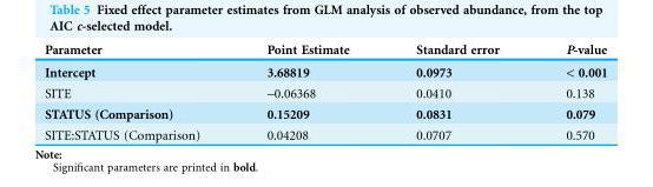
<table><thead><tr><td>Parameter</td><td>Point Estimate</td><td>Standard error</td><td>P-value</td></tr></thead><tbody><tr><td>Intercept</td><td>3.68819</td><td>0.0973</td><td>&lt; 0.001</td></tr><tr><td>SITE</td><td>-0.06368</td><td>0.0410</td><td>0.138</td></tr><tr><td>STATUS (Comparison)</td><td>0.15209</td><td>0.0831</td><td>0.079</td></tr><tr><td>SITE:STATUS (Comparison)</td><td>0.04208</td><td>0.0707</td><td>0.570</td></tr></tbody></table>